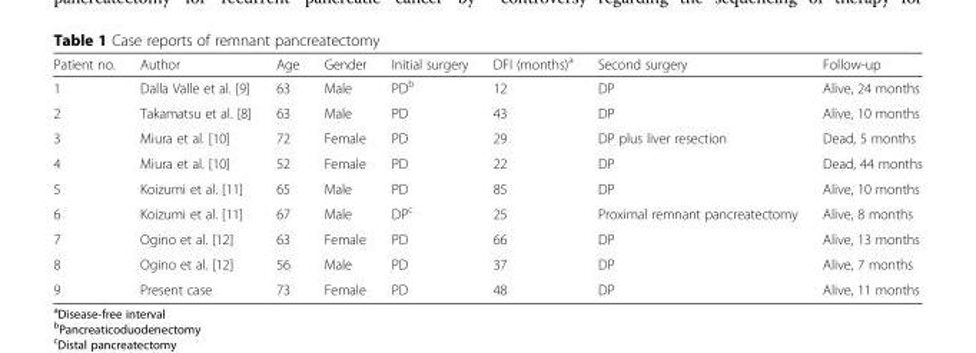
<table><thead><tr><td>Patient no.</td><td>Author</td><td>Age</td><td>Gender</td><td>Initial surgery</td><td>DFI (months)<sup>a</sup></td><td>Second surgery</td><td>Follow-up</td></tr></thead><tbody><tr><td>1</td><td>Dalla Valle et al. [9]</td><td>63</td><td>Male</td><td>PD<sup>b</sup></td><td>12</td><td>DP</td><td>Alive, 24 months</td></tr><tr><td>2</td><td>Takamatsu et al. [8]</td><td>63</td><td>Male</td><td>PD</td><td>43</td><td>DP</td><td>Alive, 10 months</td></tr><tr><td>3</td><td>Miura et al. [10]</td><td>72</td><td>Female</td><td>PD</td><td>29</td><td>DP plus liver resection</td><td>Dead, 5 months</td></tr><tr><td>4</td><td>Miura et al. [10]</td><td>52</td><td>Female</td><td>PD</td><td>22</td><td>DP</td><td>Dead, 44 months</td></tr><tr><td>5</td><td>Koizumi et al. [11]</td><td>65</td><td>Male</td><td>PD</td><td>85</td><td>DP</td><td>Alive, 10 months</td></tr><tr><td>6</td><td>Koizumi et al. [11]</td><td>67</td><td>Male</td><td>DP<sup>c</sup></td><td>25</td><td>Proximal remnant pancreatectomy</td><td>Alive, 8 months</td></tr><tr><td>7</td><td>Ogino et al. [12]</td><td>63</td><td>Female</td><td>PD</td><td>66</td><td>DP</td><td>Alive, 13 months</td></tr><tr><td>8</td><td>Ogino et al. [12]</td><td>56</td><td>Male</td><td>PD</td><td>37</td><td>DP</td><td>Alive, 7 months</td></tr><tr><td>9</td><td>Present case</td><td>73</td><td>Female</td><td>PD</td><td>48</td><td>DP</td><td>Alive, 11 months</td></tr></tbody></table>